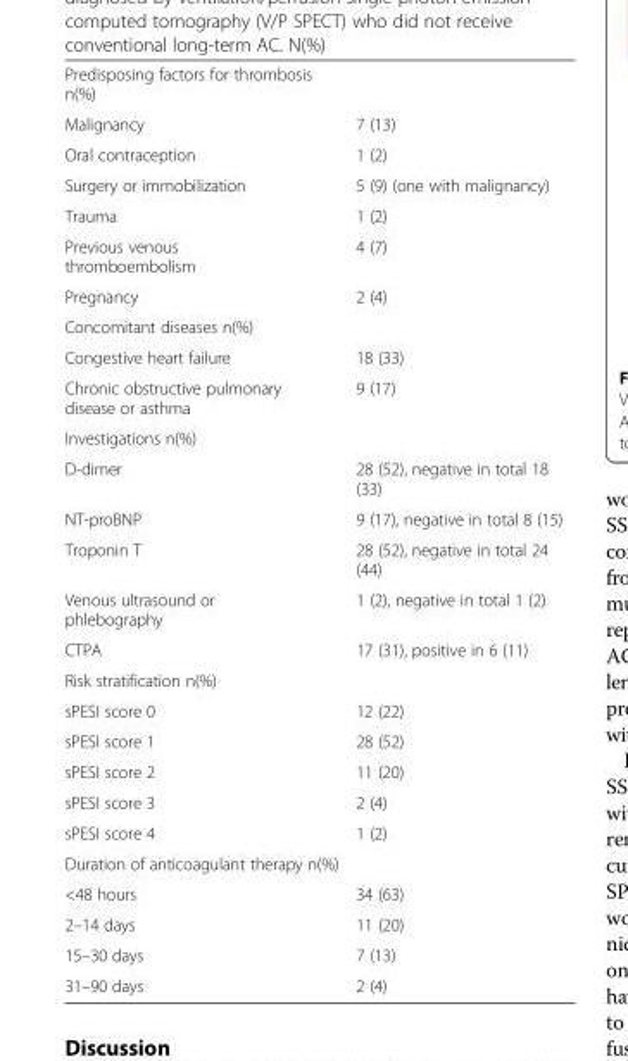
<table><tbody><tr><td colspan="2">Predisposing factors for thrombosis n(%)</td></tr><tr><td>Malignancy</td><td>7 (13)</td></tr><tr><td>Oral contraception</td><td>1 (2)</td></tr><tr><td>Surgery or immobilization</td><td>5 (9) (one with malignancy)</td></tr><tr><td>Trauma</td><td>1 (2)</td></tr><tr><td>Previous venous thromboembolism</td><td>4 (7)</td></tr><tr><td>Pregnancy</td><td>2 (4)</td></tr><tr><td colspan="2">Concomitant diseases n(%)</td></tr><tr><td>Congestive heart failure</td><td>18 (33)</td></tr><tr><td>Chronic obstructive pulmonary disease or asthma</td><td>9 (17)</td></tr><tr><td colspan="2">Investigations n(%)</td></tr><tr><td>D-dimer</td><td>28 (52), negative in total 18 (33)</td></tr><tr><td>NT-proBNP</td><td>9 (17), negative in total 8 (15)</td></tr><tr><td>Troponin T</td><td>28 (52), negative in total 24 (44)</td></tr><tr><td>Venous ultrasound or phlebography</td><td>1 (2), negative in total 1 (2)</td></tr><tr><td>CTPA</td><td>17 (31), positive in 6 (11)</td></tr><tr><td colspan="2">Risk stratification n(%)</td></tr><tr><td>sPESI score 0</td><td>12 (22)</td></tr><tr><td>sPESI score 1</td><td>28 (52)</td></tr><tr><td>sPESI score 2</td><td>11 (20)</td></tr><tr><td>sPESI score 3</td><td>2 (4)</td></tr><tr><td>sPESI score 4</td><td>1 (2)</td></tr><tr><td colspan="2">Duration of anticoagulant therapy n(%)</td></tr><tr><td>&lt;48 hours</td><td>34 (63)</td></tr><tr><td>2–14 days</td><td>11 (20)</td></tr><tr><td>15–30 days</td><td>7 (13)</td></tr><tr><td>31–90 days</td><td>2 (4)</td></tr></tbody></table>